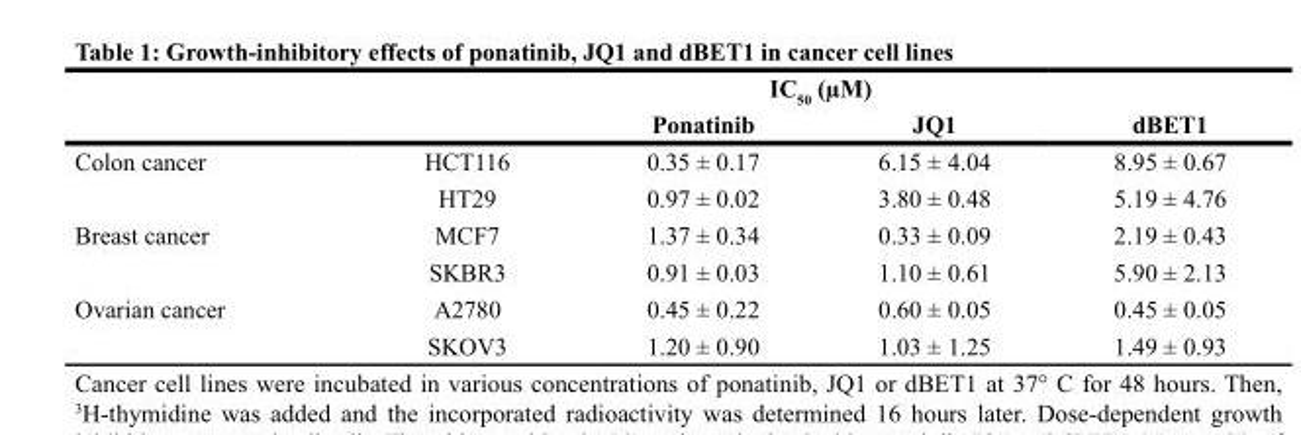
<table><thead><tr><td rowspan="2"></td><td colspan="4">IC<sub>50</sub> (µM)</td></tr><tr><td></td><td>Ponatinib</td><td>JQ1</td><td>dBET1</td></tr></thead><tbody><tr><td rowspan="2">Colon cancer</td><td>HCT116</td><td>0.35 ± 0.17</td><td>6.15 ± 4.04</td><td>8.95 ± 0.67</td></tr><tr><td>HT29</td><td>0.97 ± 0.02</td><td>3.80 ± 0.48</td><td>5.19 ± 4.76</td></tr><tr><td rowspan="2">Breast cancer</td><td>MCF7</td><td>1.37 ± 0.34</td><td>0.33 ± 0.09</td><td>2.19 ± 0.43</td></tr><tr><td>SKBR3</td><td>0.91 ± 0.03</td><td>1.10 ± 0.61</td><td>5.90 ± 2.13</td></tr><tr><td rowspan="2">Ovarian cancer</td><td>A2780</td><td>0.45 ± 0.22</td><td>0.60 ± 0.05</td><td>0.45 ± 0.05</td></tr><tr><td>SKOV3</td><td>1.20 ± 0.90</td><td>1.03 ± 1.25</td><td>1.49 ± 0.93</td></tr></tbody></table>